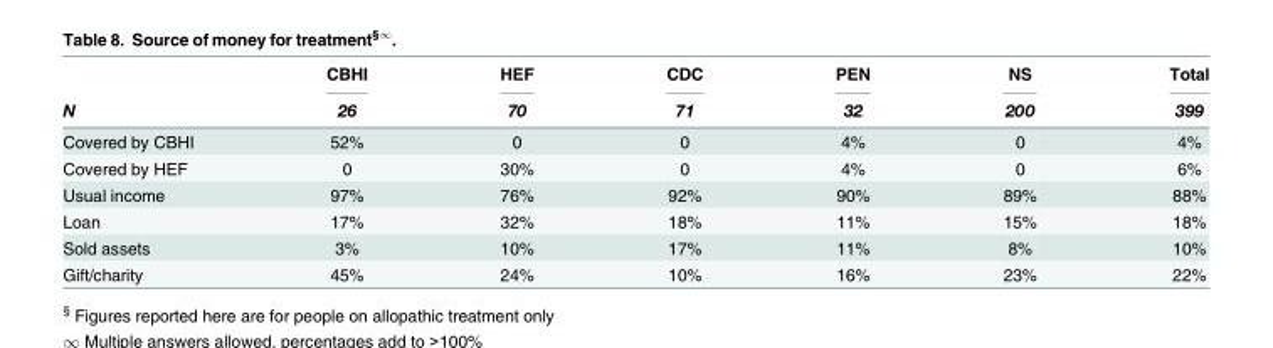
<table><thead><tr><td rowspan="2">N</td><td rowspan="2">CBHI 26</td><td rowspan="2">HEF 70</td><td rowspan="2">CDC 71</td><td rowspan="2">PEN 32</td><td rowspan="2">NS 200</td><td rowspan="2">Total 399</td></tr><tr></tr></thead><tbody><tr><td>Covered by CBHI</td><td>52%</td><td>0</td><td>0</td><td>4%</td><td>0</td><td>4%</td></tr><tr><td>Covered by HEF</td><td>0</td><td>30%</td><td>0</td><td>4%</td><td>0</td><td>6%</td></tr><tr><td>Usual income</td><td>97%</td><td>76%</td><td>92%</td><td>90%</td><td>89%</td><td>88%</td></tr><tr><td>Loan</td><td>17%</td><td>32%</td><td>18%</td><td>11%</td><td>15%</td><td>18%</td></tr><tr><td>Sold assets</td><td>3%</td><td>10%</td><td>17%</td><td>11%</td><td>8%</td><td>10%</td></tr><tr><td>Gift/charity</td><td>45%</td><td>24%</td><td>10%</td><td>16%</td><td>23%</td><td>22%</td></tr></tbody></table>